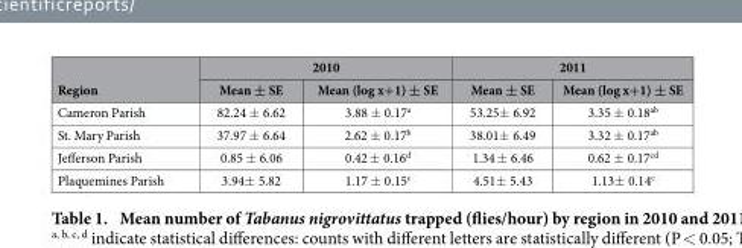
<table><thead><tr><td rowspan="2">Region</td><td colspan="2">2010</td><td colspan="2">2011</td></tr><tr><td>Mean ± SE</td><td>Mean (log x+1) ± SE</td><td>Mean ± SE</td><td>Mean (log x+1) ± SE</td></tr></thead><tbody><tr><td>Cameron Parish</td><td>82.24 ± 6.62</td><td>3.88 ± 0.17<sup>a</sup></td><td>53.25± 6.92</td><td>3.35 ± 0.18<sup>ab</sup></td></tr><tr><td>St. Mary Parish</td><td>37.97 ± 6.64</td><td>2.62 ± 0.17<sup>b</sup></td><td>38.01± 6.49</td><td>3.32 ± 0.17<sup>ab</sup></td></tr><tr><td>Jefferson Parish</td><td>0.85 ± 6.06</td><td>0.42 ± 0.16<sup>d</sup></td><td>1.34 ± 6.46</td><td>0.62 ± 0.17<sup>cd</sup></td></tr><tr><td>Plaquemines Parish</td><td>3.94± 5.82</td><td>1.17 ± 0.15<sup>c</sup></td><td>4.51± 5.43</td><td>1.13± 0.14<sup>c</sup></td></tr></tbody></table>